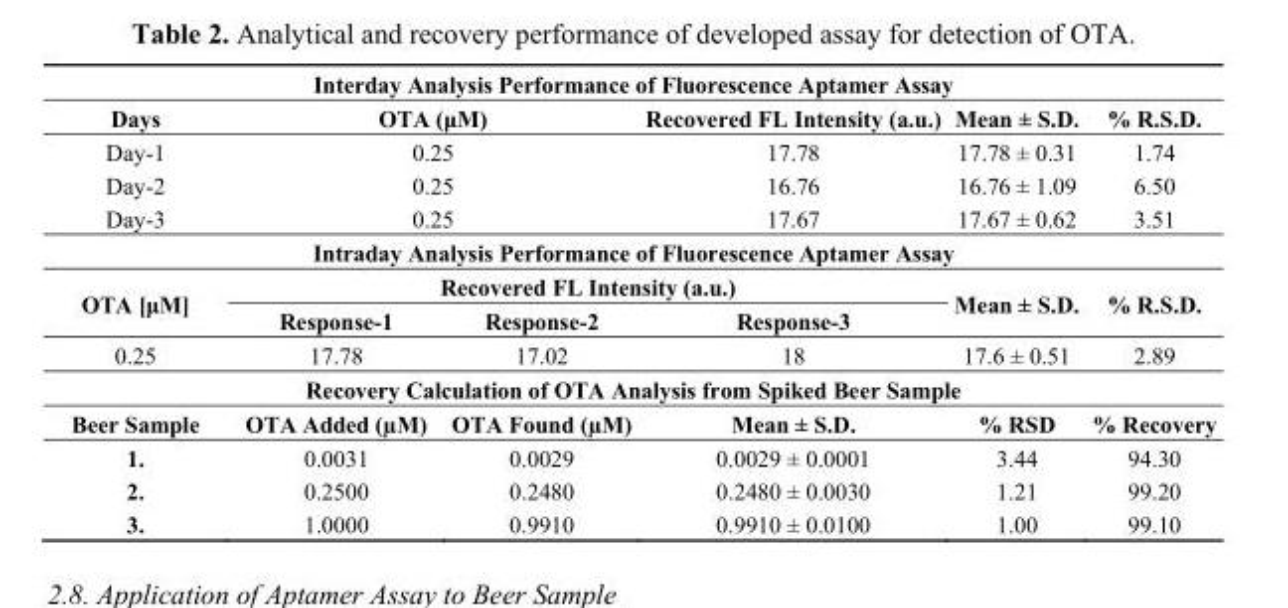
<table><thead><tr><td colspan="6">Interday Analysis Performance of Fluorescence Aptamer Assay</td></tr><tr><td>Days</td><td colspan="2">OTA (μM)</td><td>Recovered FL Intensity (a.u.)</td><td>Mean ± S.D.</td><td>% R.S.D.</td></tr></thead><tbody><tr><td>Day-1</td><td colspan="2">0.25</td><td>17.78</td><td>17.78 ± 0.31</td><td>1.74</td></tr><tr><td>Day-2</td><td colspan="2">0.25</td><td>16.76</td><td>16.76 ± 1.09</td><td>6.50</td></tr><tr><td>Day-3</td><td colspan="2">0.25</td><td>17.67</td><td>17.67 ± 0.62</td><td>3.51</td></tr><tr><td colspan="6">Intraday Analysis Performance of Fluorescence Aptamer Assay</td></tr><tr><td rowspan="2">OTA [μM]</td><td colspan="3">Recovered FL Intensity (a.u.)</td><td rowspan="2">Mean ± S.D.</td><td rowspan="2">% R.S.D.</td></tr><tr><td>Response-1</td><td>Response-2</td><td>Response-3</td></tr><tr><td>0.25</td><td>17.78</td><td>17.02</td><td>18</td><td>17.6 ± 0.51</td><td>2.89</td></tr><tr><td colspan="6">Recovery Calculation of OTA Analysis from Spiked Beer Sample</td></tr><tr><td>Beer Sample</td><td>OTA Added (µM)</td><td>OTA Found (µM)</td><td>Mean ± S.D.</td><td>% RSD</td><td>% Recovery</td></tr><tr><td>1.</td><td>0.0031</td><td>0.0029</td><td>0.0029 ± 0.0001</td><td>3.44</td><td>94.30</td></tr><tr><td>2.</td><td>0.2500</td><td>0.2480</td><td>0.2480 ± 0.0030</td><td>1.21</td><td>99.20</td></tr><tr><td>3.</td><td>1.0000</td><td>0.9910</td><td>0.9910 ± 0.0100</td><td>1.00</td><td>99.10</td></tr></tbody></table>